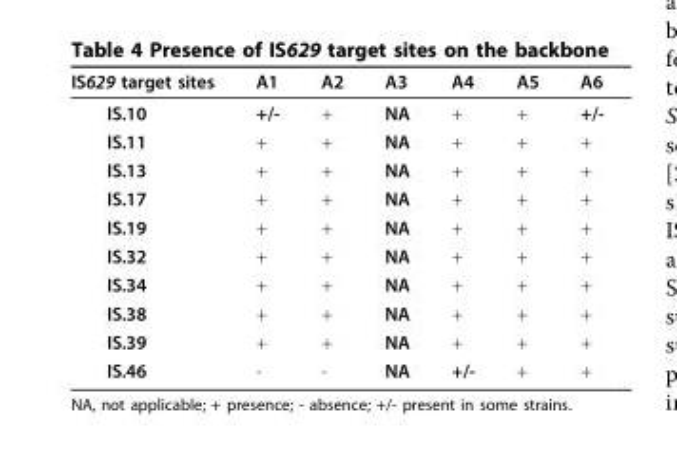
<table><thead><tr><td>IS629 target sites</td><td>A1</td><td>A2</td><td>A3</td><td>A4</td><td>A5</td><td>A6</td></tr></thead><tbody><tr><td>IS.10</td><td>+/-</td><td>+</td><td>NA</td><td>+</td><td>+</td><td>+/-</td></tr><tr><td>IS.11</td><td>+</td><td>+</td><td>NA</td><td>+</td><td>+</td><td>+</td></tr><tr><td>IS.13</td><td>+</td><td>+</td><td>NA</td><td>+</td><td>+</td><td>+</td></tr><tr><td>IS.17</td><td>+</td><td>+</td><td>NA</td><td>+</td><td>+</td><td>+</td></tr><tr><td>IS.19</td><td>+</td><td>+</td><td>NA</td><td>+</td><td>+</td><td>+</td></tr><tr><td>IS.32</td><td>+</td><td>+</td><td>NA</td><td>+</td><td>+</td><td>+</td></tr><tr><td>IS.34</td><td>+</td><td>+</td><td>NA</td><td>+</td><td>+</td><td>+</td></tr><tr><td>IS.38</td><td>+</td><td>+</td><td>NA</td><td>+</td><td>+</td><td>+</td></tr><tr><td>IS.39</td><td>+</td><td>+</td><td>NA</td><td>+</td><td>+</td><td>+</td></tr><tr><td>IS.46</td><td>-</td><td>-</td><td>NA</td><td>+/-</td><td>+</td><td>+</td></tr></tbody></table>